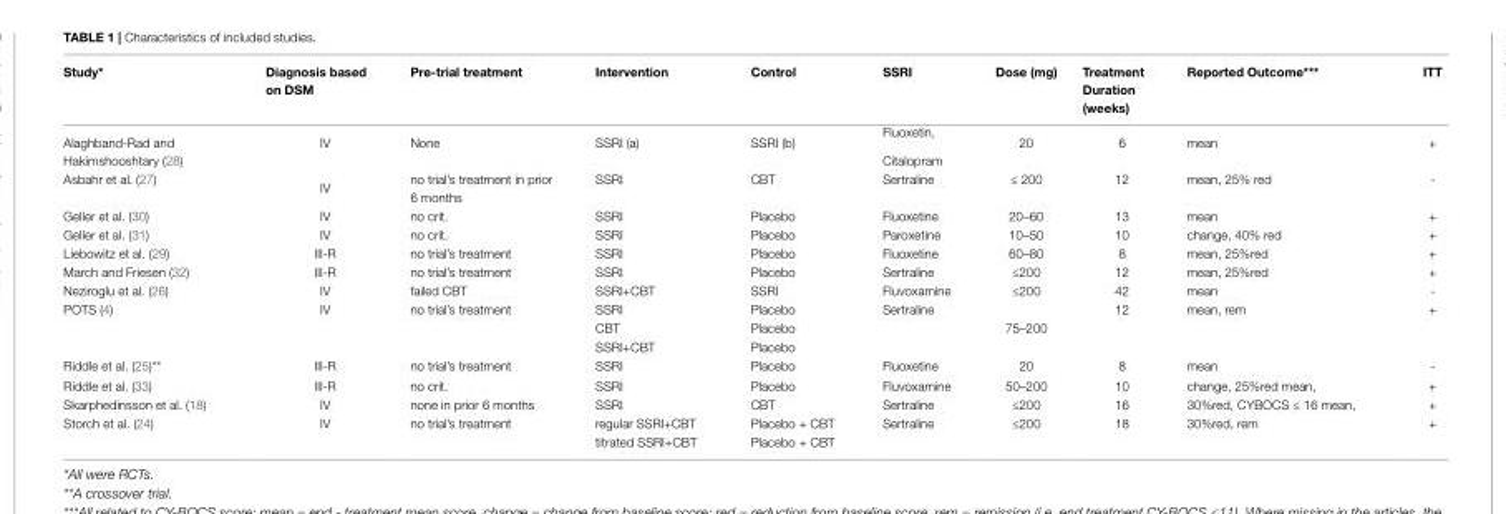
<table><thead><tr><td>Study*</td><td>Diagnosis based on DSM</td><td>Pre-trial treatment</td><td>Intervention</td><td>Control</td><td>SSRI</td><td>Dose (mg)</td><td>Treatment Duration (weeks)</td><td>Reported Outcome***</td><td>ITT</td></tr></thead><tbody><tr><td>Alaghband-Rad and Hakimshooshtary (28)</td><td>IV</td><td>None</td><td>SSRI (a)</td><td>SSRI (b)</td><td>Fluoxetin, Citalopram</td><td>20</td><td>6</td><td>mean</td><td>+</td></tr><tr><td>Asbahr et al. (27)</td><td>IV</td><td>no trial’s treatment in prior 6 months</td><td>SSRI</td><td>CBT</td><td>Sertraline</td><td>≤ 200</td><td>12</td><td>mean, 25% red</td><td>-</td></tr><tr><td>Geller et al. (30)</td><td>IV</td><td>no crit.</td><td>SSRI</td><td>Placebo</td><td>Fluoxetine</td><td>20–60</td><td>13</td><td>mean</td><td>+</td></tr><tr><td>Geller et al. (31)</td><td>IV</td><td>no crit.</td><td>SSRI</td><td>Placebo</td><td>Paroxetine</td><td>10–50</td><td>10</td><td>change, 40% red</td><td>+</td></tr><tr><td>Liebowitz et al. (29)</td><td>III-R</td><td>no trial’s treatment</td><td>SSRI</td><td>Placebo</td><td>Fluoxetine</td><td>60–80</td><td>8</td><td>mean, 25%red</td><td>+</td></tr><tr><td>March and Friesen (32)</td><td>III-R</td><td>no trial’s treatment</td><td>SSRI</td><td>Placebo</td><td>Sertraline</td><td>≤200</td><td>12</td><td>mean, 25%red</td><td>+</td></tr><tr><td>Neziroglu et al. (26)</td><td>IV</td><td>failed CBT</td><td>SSRI+CBT</td><td>SSRI</td><td>Fluvoxamine</td><td>≤200</td><td>42</td><td>mean</td><td>-</td></tr><tr><td rowspan="3">POTS (4)</td><td>IV</td><td>no trial’s treatment</td><td>SSRI</td><td>Placebo</td><td>Sertraline</td><td></td><td>12</td><td>mean, rem</td><td>+</td></tr><tr><td></td><td></td><td>CBT</td><td>Placebo</td><td></td><td>75–200</td><td></td><td></td><td></td></tr><tr><td></td><td></td><td>SSRI+CBT</td><td>Placebo</td><td></td><td></td><td></td><td></td><td></td></tr><tr><td>Riddle et al. (25)**</td><td>III-R</td><td>no trial’s treatment</td><td>SSRI</td><td>Placebo</td><td>Fluoxetine</td><td>20</td><td>8</td><td>mean</td><td>-</td></tr><tr><td>Riddle et al. (33)</td><td>III-R</td><td>no crit.</td><td>SSRI</td><td>Placebo</td><td>Fluvoxamine</td><td>50–200</td><td>10</td><td>change, 25%red mean,</td><td>+</td></tr><tr><td>Skarphedinsson et al. (18)</td><td>IV</td><td>none in prior 6 months</td><td>SSRI</td><td>CBT</td><td>Sertraline</td><td>≤200</td><td>16</td><td>30%red, CYBOCS ≤ 16 mean,</td><td>+</td></tr><tr><td rowspan="2">Storch et al. (24)</td><td>IV</td><td>no trial’s treatment</td><td>regular SSRI+CBT</td><td>Placebo + CBT</td><td>Sertraline</td><td>≤200</td><td>18</td><td>30%red, rem</td><td>+</td></tr><tr><td></td><td></td><td>titrated SSRI+CBT</td><td>Placebo + CBT</td><td></td><td></td><td></td><td></td><td></td></tr></tbody></table>